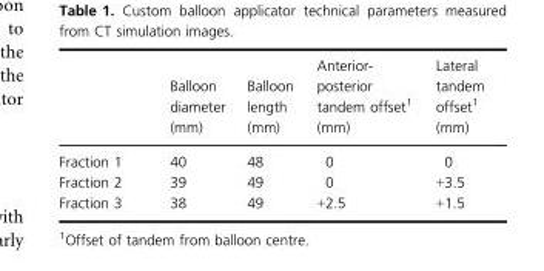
<table><thead><tr><td></td><td>Balloon diameter (mm)</td><td>Balloon length (mm)</td><td>Anterior- posterior tandem offset1 (mm)</td><td>Lateral tandem offset1 (mm)</td></tr></thead><tbody><tr><td>Fraction 1</td><td>40</td><td>48</td><td>0</td><td>0</td></tr><tr><td>Fraction 2</td><td>39</td><td>49</td><td>0</td><td>+3.5</td></tr><tr><td>Fraction 3</td><td>38</td><td>49</td><td>+2.5</td><td>+1.5</td></tr></tbody></table>